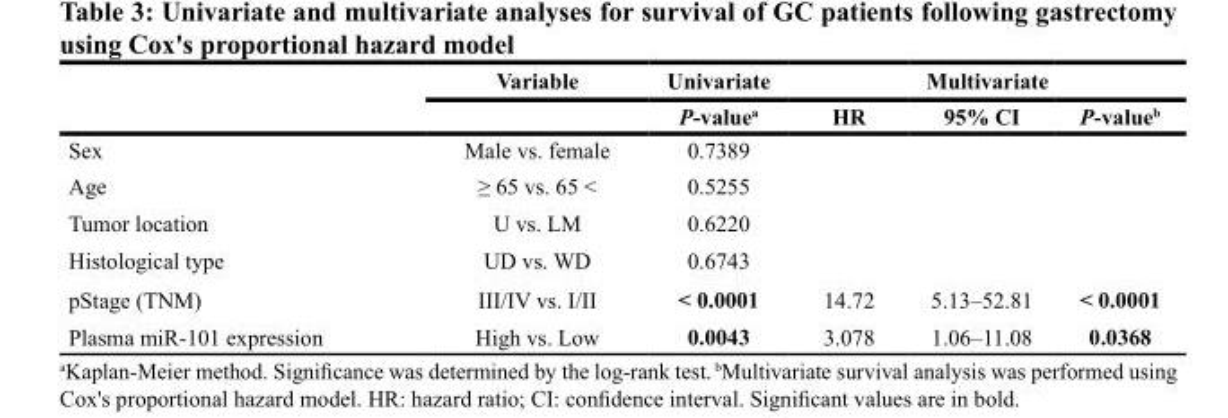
<table><thead><tr><td rowspan="2"></td><td rowspan="2">Variable</td><td rowspan="2">Univariate P-value<sup>a</sup></td><td colspan="3">Multivariate</td></tr><tr><td>HR</td><td>95% CI</td><td>P-value<sup>b</sup></td></tr></thead><tbody><tr><td>Sex</td><td>Male vs. female</td><td>0.7389</td><td></td><td></td><td></td></tr><tr><td>Age</td><td>≥ 65 vs. 65 &lt;</td><td>0.5255</td><td></td><td></td><td></td></tr><tr><td>Tumor location</td><td>U vs. LM</td><td>0.6220</td><td></td><td></td><td></td></tr><tr><td>Histological type</td><td>UD vs. WD</td><td>0.6743</td><td></td><td></td><td></td></tr><tr><td>pStage (TNM)</td><td>III/IV vs. I/II</td><td>&lt; 0.0001</td><td>14.72</td><td>5.13–52.81</td><td>&lt; 0.0001</td></tr><tr><td>Plasma miR-101 expression</td><td>High vs. Low</td><td>0.0043</td><td>3.078</td><td>1.06–11.08</td><td>0.0368</td></tr></tbody></table>